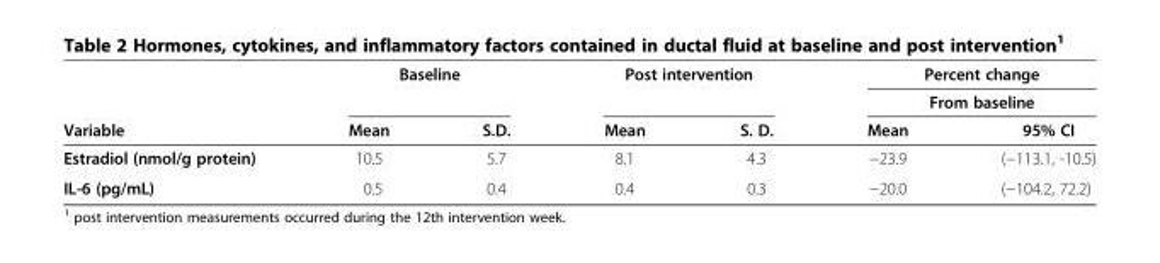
<table><thead><tr><td rowspan="3">Variable</td><td colspan="2">Baseline</td><td colspan="2">Post intervention</td><td rowspan="2" colspan="2">Percent change From baseline</td></tr><tr><td rowspan="2">Mean</td><td rowspan="2">S.D.</td><td rowspan="2">Mean</td><td rowspan="2">S. D.</td></tr><tr><td>Mean</td><td>95% CI</td></tr></thead><tbody><tr><td>Estradiol (nmol/g protein)</td><td>10.5</td><td>5.7</td><td>8.1</td><td>4.3</td><td>−23.9</td><td>(−113.1, -10.5)</td></tr><tr><td>IL-6 (pg/mL)</td><td>0.5</td><td>0.4</td><td>0.4</td><td>0.3</td><td>−20.0</td><td>(−104.2, 72.2)</td></tr></tbody></table>